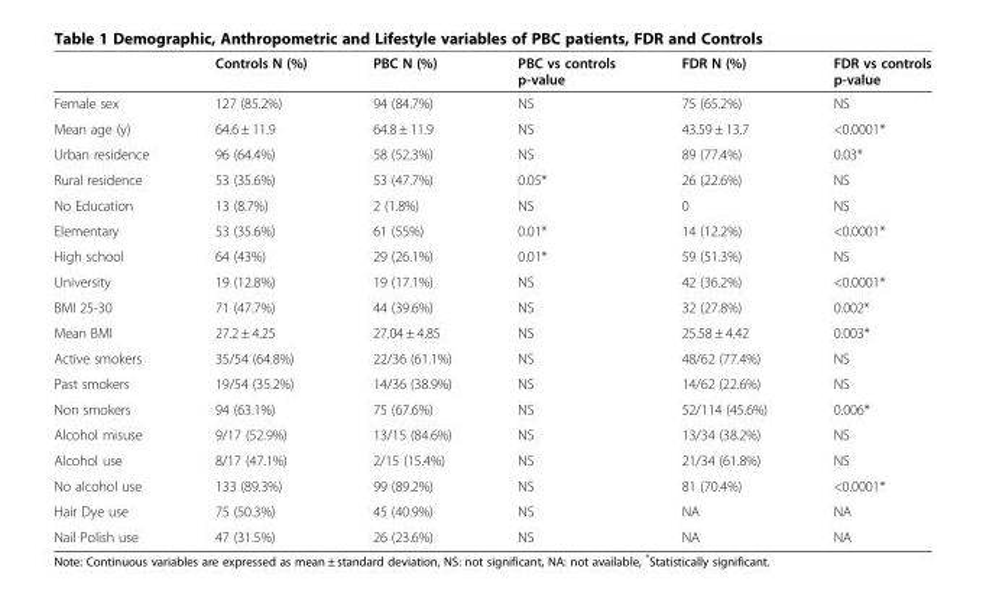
<table><thead><tr><td></td><td>Controls N (%)</td><td>PBC N (%)</td><td>PBC vs controls p-value</td><td>FDR N (%)</td><td>FDR vs controls p-value</td></tr></thead><tbody><tr><td>Female sex</td><td>127 (85.2%)</td><td>94 (84.7%)</td><td>NS</td><td>75 (65.2%)</td><td>NS</td></tr><tr><td>Mean age (y)</td><td>64.6 ± 11.9</td><td>64.8 ± 11.9</td><td>NS</td><td>43.59 ± 13.7</td><td>&lt;0.0001*</td></tr><tr><td>Urban residence</td><td>96 (64.4%)</td><td>58 (52.3%)</td><td>NS</td><td>89 (77.4%)</td><td>0.03*</td></tr><tr><td>Rural residence</td><td>53 (35.6%)</td><td>53 (47.7%)</td><td>0.05*</td><td>26 (22.6%)</td><td>NS</td></tr><tr><td>No Education</td><td>13 (8.7%)</td><td>2 (1.8%)</td><td>NS</td><td>0</td><td>NS</td></tr><tr><td>Elementary</td><td>53 (35.6%)</td><td>61 (55%)</td><td>0.01*</td><td>14 (12.2%)</td><td>&lt;0.0001*</td></tr><tr><td>High school</td><td>64 (43%)</td><td>29 (26.1%)</td><td>0.01*</td><td>59 (51.3%)</td><td>NS</td></tr><tr><td>University</td><td>19 (12.8%)</td><td>19 (17.1%)</td><td>NS</td><td>42 (36.2%)</td><td>&lt;0.0001*</td></tr><tr><td>BMI 25-30</td><td>71 (47.7%)</td><td>44 (39.6%)</td><td>NS</td><td>32 (27.8%)</td><td>0.002*</td></tr><tr><td>Mean BMI</td><td>27.2 ± 4.25</td><td>27.04 ± 4.85</td><td>NS</td><td>25.58 ± 4.42</td><td>0.003*</td></tr><tr><td>Active smokers</td><td>35/54 (64.8%)</td><td>22/36 (61.1%)</td><td>NS</td><td>48/62 (77.4%)</td><td>NS</td></tr><tr><td>Past smokers</td><td>19/54 (35.2%)</td><td>14/36 (38.9%)</td><td>NS</td><td>14/62 (22.6%)</td><td>NS</td></tr><tr><td>Non smokers</td><td>94 (63.1%)</td><td>75 (67.6%)</td><td>NS</td><td>52/114 (45.6%)</td><td>0.006*</td></tr><tr><td>Alcohol misuse</td><td>9/17 (52.9%)</td><td>13/15 (84.6%)</td><td>NS</td><td>13/34 (38.2%)</td><td>NS</td></tr><tr><td>Alcohol use</td><td>8/17 (47.1%)</td><td>2/15 (15.4%)</td><td>NS</td><td>21/34 (61.8%)</td><td>NS</td></tr><tr><td>No alcohol use</td><td>133 (89.3%)</td><td>99 (89.2%)</td><td>NS</td><td>81 (70.4%)</td><td>&lt;0.0001*</td></tr><tr><td>Hair Dye use</td><td>75 (50.3%)</td><td>45 (40.9%)</td><td>NS</td><td>NA</td><td>NA</td></tr><tr><td>Nail Polish use</td><td>47 (31.5%)</td><td>26 (23.6%)</td><td>NS</td><td>NA</td><td>NA</td></tr></tbody></table>